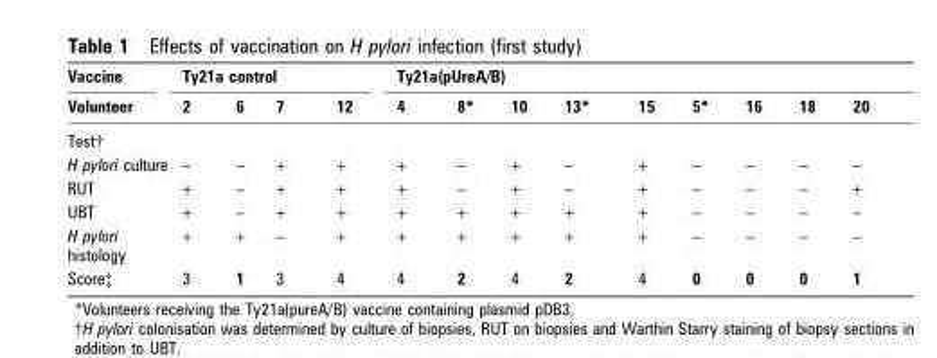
<table><thead><tr><td rowspan="2">Vaccine Volunteer</td><td colspan="4">Ty21a control</td><td colspan="9">Ty21a(pUreA/B)</td></tr><tr><td>2</td><td>6</td><td>7</td><td>12</td><td>4</td><td>8*</td><td>10</td><td>13*</td><td>15</td><td>5*</td><td>16</td><td>18</td><td>20</td></tr></thead><tbody><tr><td colspan="14">Test†</td></tr><tr><td>H pylori culture</td><td>–</td><td>–</td><td>+</td><td>+</td><td>+</td><td>–</td><td>+</td><td>–</td><td>+</td><td>–</td><td>–</td><td>–</td><td>–</td></tr><tr><td>RUT</td><td>+</td><td>–</td><td>+</td><td>+</td><td>+</td><td>–</td><td>+</td><td>–</td><td>+</td><td>–</td><td>–</td><td>–</td><td>+</td></tr><tr><td>UBT</td><td>+</td><td>–</td><td>+</td><td>+</td><td>+</td><td>+</td><td>+</td><td>+</td><td>+</td><td>–</td><td>–</td><td>–</td><td>–</td></tr><tr><td>H pylori histology</td><td>+</td><td>+</td><td>–</td><td>+</td><td>+</td><td>+</td><td>+</td><td>+</td><td>+</td><td>–</td><td>–</td><td>–</td><td>–</td></tr><tr><td>Score‡</td><td>3</td><td>1</td><td>3</td><td>4</td><td>4</td><td>2</td><td>4</td><td>2</td><td>4</td><td>0</td><td>0</td><td>0</td><td>1</td></tr></tbody></table>